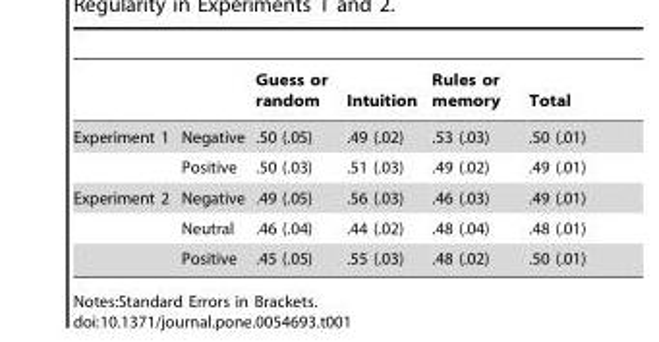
<table><thead><tr><td></td><td></td><td>Guess or random</td><td>Intuition</td><td>Rules or memory</td><td>Total</td></tr></thead><tbody><tr><td rowspan="2">Experiment 1</td><td>Negative</td><td>.50 (.05)</td><td>.49 (.02)</td><td>.53 (.03)</td><td>.50 (.01)</td></tr><tr><td>Positive</td><td>.50 (.03)</td><td>.51 (.03)</td><td>.49 (.02)</td><td>.49 (.01)</td></tr><tr><td rowspan="3">Experiment 2</td><td>Negative</td><td>.49 (.05)</td><td>.56 (.03)</td><td>.46 (.03)</td><td>.49 (.01)</td></tr><tr><td>Neutral</td><td>.46 (.04)</td><td>.44 (.02)</td><td>.48 (.04)</td><td>.48 (.01)</td></tr><tr><td>Positive</td><td>.45 (.05)</td><td>.55 (.03)</td><td>.48 (.02)</td><td>.50 (.01)</td></tr></tbody></table>